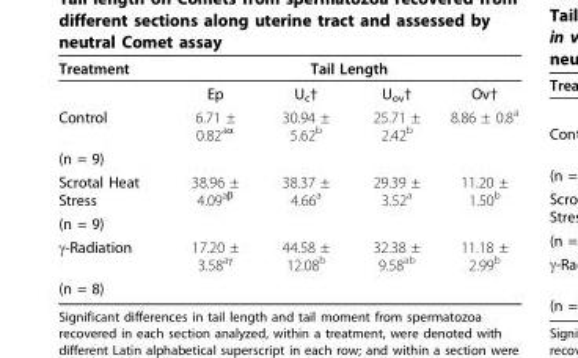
<table><thead><tr><td rowspan="2">Treatment</td><td colspan="4">Tail Length</td></tr><tr><td>Ep</td><td>U<sub>c</sub>†</td><td>U<sub>ov</sub>†</td><td>Ov†</td></tr></thead><tbody><tr><td>Control</td><td>6.71 ± 0.82<sup>aα</sup></td><td>30.94 ± 5.62<sup>b</sup></td><td>25.71 ± 2.42<sup>b</sup></td><td>8.86 ± 0.8<sup>a</sup></td></tr><tr><td colspan="5">(n = 9)</td></tr><tr><td>Scrotal Heat Stress</td><td>38.96 ± 4.09<sup>aβ</sup></td><td>38.37 ± 4.66<sup>a</sup></td><td>29.39 ± 3.52<sup>a</sup></td><td>11.20 ± 1.50<sup>b</sup></td></tr><tr><td colspan="5">(n = 9)</td></tr><tr><td>γ-Radiation</td><td>17.20 ± 3.58<sup>aγ</sup></td><td>44.58 ± 12.08<sup>b</sup></td><td>32.38 ± 9.58<sup>ab</sup></td><td>11.18 ± 2.99<sup>b</sup></td></tr><tr><td>(n = 8)</td><td></td><td></td><td></td><td></td></tr></tbody></table>